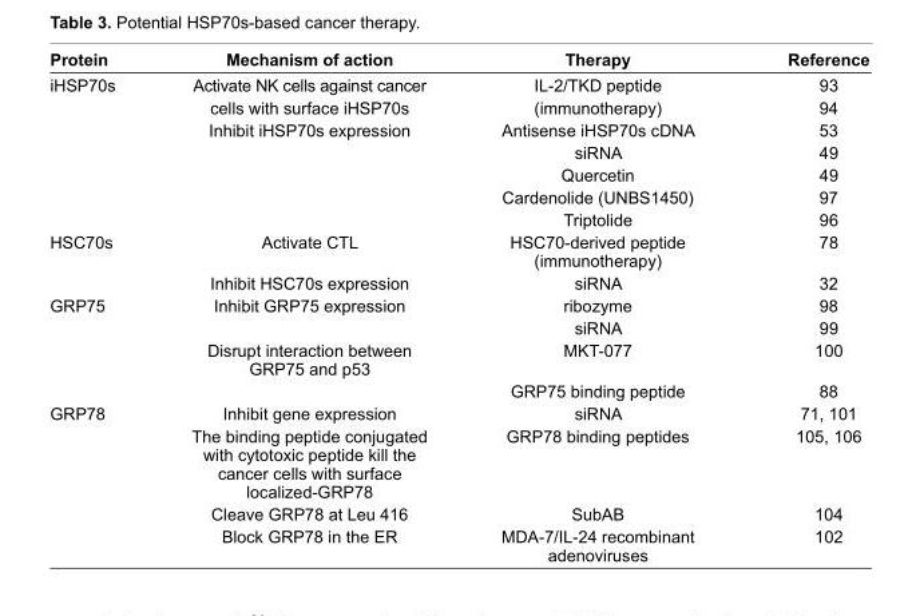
<table><thead><tr><td>Protein</td><td>Mechanism of action</td><td>Therapy</td><td>Reference</td></tr></thead><tbody><tr><td rowspan="6">iHSP70s</td><td>Activate NK cells against cancer cells with surface iHSP70s</td><td>IL-2/TKD peptide (immunotherapy)</td><td>93 94</td></tr><tr><td>Inhibit iHSP70s expression</td><td>Antisense iHSP70s cDNA</td><td>53</td></tr><tr><td></td><td>siRNA</td><td>49</td></tr><tr><td></td><td>Quercetin</td><td>49</td></tr><tr><td></td><td>Cardenolide (UNBS1450)</td><td>97</td></tr><tr><td></td><td>Triptolide</td><td>96</td></tr><tr><td rowspan="2">HSC70s</td><td>Activate CTL</td><td>HSC70-derived peptide (immunotherapy)</td><td>78</td></tr><tr><td>Inhibit HSC70s expression</td><td>siRNA</td><td>32</td></tr><tr><td rowspan="4">GRP75</td><td>Inhibit GRP75 expression</td><td>ribozyme</td><td>98</td></tr><tr><td></td><td>siRNA</td><td>99</td></tr><tr><td>Disrupt interaction between GRP75 and p53</td><td>MKT-077</td><td>100</td></tr><tr><td></td><td>GRP75 binding peptide</td><td>88</td></tr><tr><td rowspan="4">GRP78</td><td>Inhibit gene expression</td><td>siRNA</td><td>71, 101</td></tr><tr><td>The binding peptide conjugated with cytotoxic peptide kill the cancer cells with surface localized-GRP78</td><td>GRP78 binding peptides</td><td>105, 106</td></tr><tr><td>Cleave GRP78 at Leu 416</td><td>SubAB</td><td>104</td></tr><tr><td>Block GRP78 in the ER</td><td>MDA-7/IL-24 recombinant adenoviruses</td><td>102</td></tr></tbody></table>